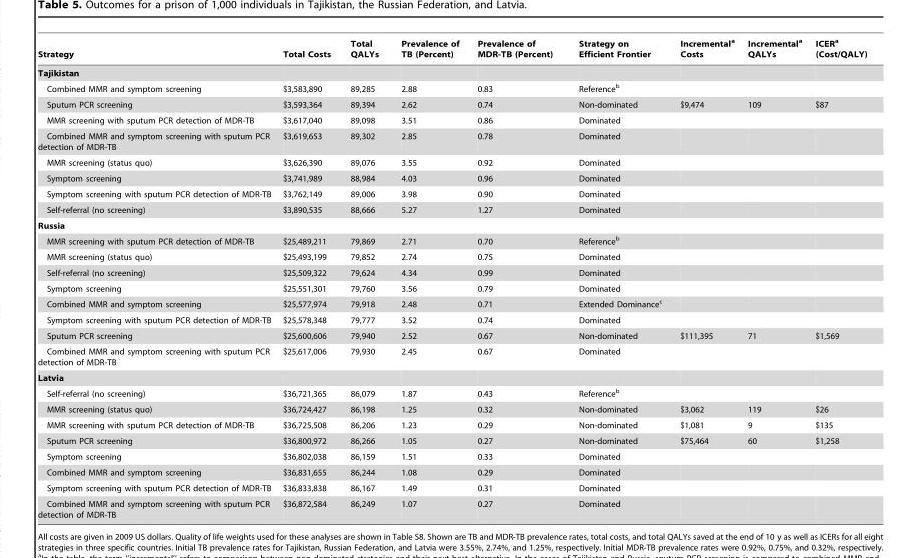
<table><thead><tr><td>Strategy</td><td>Total Costs</td><td>Total QALYs</td><td>Prevalence of TB (Percent)</td><td>Prevalence of MDR-TB (Percent)</td><td>Strategy on Efficient Frontier</td><td>Incremental<sup>a</sup> Costs</td><td>Incremental<sup>a</sup> QALYs</td><td>ICER<sup>a</sup> (Cost/QALY)</td></tr></thead><tbody><tr><td colspan="9">Tajikistan</td></tr><tr><td>Combined MMR and symptom screening</td><td>$3,583,890</td><td>89,285</td><td>2.88</td><td>0.83</td><td>Reference<sup>b</sup></td><td></td><td></td><td></td></tr><tr><td>Sputum PCR screening</td><td>$3,593,364</td><td>89,394</td><td>2.62</td><td>0.74</td><td>Non-dominated</td><td>$9,474</td><td>109</td><td>$87</td></tr><tr><td>MMR screening with sputum PCR detection of MDR-TB</td><td>$3,617,040</td><td>89,098</td><td>3.51</td><td>0.86</td><td>Dominated</td><td></td><td></td><td></td></tr><tr><td>Combined MMR and symptom screening with sputum PCR detection of MDR-TB</td><td>$3,619,653</td><td>89,302</td><td>2.85</td><td>0.78</td><td>Dominated</td><td></td><td></td><td></td></tr><tr><td>MMR screening (status quo)</td><td>$3,626,390</td><td>89,076</td><td>3.55</td><td>0.92</td><td>Dominated</td><td></td><td></td><td></td></tr><tr><td>Symptom screening</td><td>$3,741,989</td><td>88,984</td><td>4.03</td><td>0.96</td><td>Dominated</td><td></td><td></td><td></td></tr><tr><td>Symptom screening with sputum PCR detection of MDR-TB</td><td>$3,762,149</td><td>89,006</td><td>3.98</td><td>0.90</td><td>Dominated</td><td></td><td></td><td></td></tr><tr><td>Self-referral (no screening)</td><td>$3,890,535</td><td>88,666</td><td>5.27</td><td>1.27</td><td>Dominated</td><td></td><td></td><td></td></tr><tr><td colspan="9">Russia</td></tr><tr><td>MMR screening with sputum PCR detection of MDR-TB</td><td>$25,489,211</td><td>79,869</td><td>2.71</td><td>0.70</td><td>Reference<sup>b</sup></td><td></td><td></td><td></td></tr><tr><td>MMR screening (status quo)</td><td>$25,493,199</td><td>79,852</td><td>2.74</td><td>0.75</td><td>Dominated</td><td></td><td></td><td></td></tr><tr><td>Self-referral (no screening)</td><td>$25,509,322</td><td>79,624</td><td>4.34</td><td>0.99</td><td>Dominated</td><td></td><td></td><td></td></tr><tr><td>Symptom screening</td><td>$25,551,301</td><td>79,760</td><td>3.56</td><td>0.79</td><td>Dominated</td><td></td><td></td><td></td></tr><tr><td>Combined MMR and symptom screening</td><td>$25,577,974</td><td>79,918</td><td>2.48</td><td>0.71</td><td>Extended Dominance<sup>c</sup></td><td></td><td></td><td></td></tr><tr><td>Symptom screening with sputum PCR detection of MDR-TB</td><td>$25,578,348</td><td>79,777</td><td>3.52</td><td>0.74</td><td>Dominated</td><td></td><td></td><td></td></tr><tr><td>Sputum PCR screening</td><td>$25,600,606</td><td>79,940</td><td>2.52</td><td>0.67</td><td>Non-dominated</td><td>$111,395</td><td>71</td><td>$1,569</td></tr><tr><td>Combined MMR and symptom screening with sputum PCR detection of MDR-TB</td><td>$25,617,006</td><td>79,930</td><td>2.45</td><td>0.67</td><td>Dominated</td><td></td><td></td><td></td></tr><tr><td colspan="9">Latvia</td></tr><tr><td>Self-referral (no screening)</td><td>$36,721,365</td><td>86,079</td><td>1.87</td><td>0.43</td><td>Reference<sup>b</sup></td><td></td><td></td><td></td></tr><tr><td>MMR screening (status quo)</td><td>$36,724,427</td><td>86,198</td><td>1.25</td><td>0.32</td><td>Non-dominated</td><td>$3,062</td><td>119</td><td>$26</td></tr><tr><td>MMR screening with sputum PCR detection of MDR-TB</td><td>$36,725,508</td><td>86,206</td><td>1.23</td><td>0.29</td><td>Non-dominated</td><td>$1,081</td><td>9</td><td>$135</td></tr><tr><td>Sputum PCR screening</td><td>$36,800,972</td><td>86,266</td><td>1.05</td><td>0.27</td><td>Non-dominated</td><td>$75,464</td><td>60</td><td>$1,258</td></tr><tr><td>Symptom screening</td><td>$36,802,038</td><td>86,159</td><td>1.51</td><td>0.33</td><td>Dominated</td><td></td><td></td><td></td></tr><tr><td>Combined MMR and symptom screening</td><td>$36,831,655</td><td>86,244</td><td>1.08</td><td>0.29</td><td>Dominated</td><td></td><td></td><td></td></tr><tr><td>Symptom screening with sputum PCR detection of MDR-TB</td><td>$36,833,838</td><td>86,167</td><td>1.49</td><td>0.31</td><td>Dominated</td><td></td><td></td><td></td></tr><tr><td>Combined MMR and symptom screening with sputum PCR detection of MDR-TB</td><td>$36,872,584</td><td>86,249</td><td>1.07</td><td>0.27</td><td>Dominated</td><td></td><td></td><td></td></tr></tbody></table>